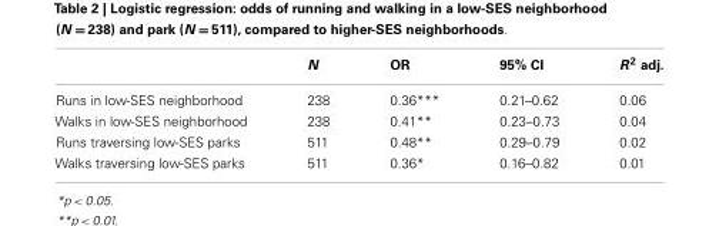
<table><thead><tr><td></td><td>N</td><td>OR</td><td>95% CI</td><td>R<sup>2</sup> adj.</td></tr></thead><tbody><tr><td>Runs in low-SES neighborhood</td><td>238</td><td>0.36***</td><td>0.21–0.62</td><td>0.06</td></tr><tr><td>Walks in low-SES neighborhood</td><td>238</td><td>0.41**</td><td>0.23–0.73</td><td>0.04</td></tr><tr><td>Runs traversing low-SES parks</td><td>511</td><td>0.48**</td><td>0.29–0.79</td><td>0.02</td></tr><tr><td>Walks traversing low-SES parks</td><td>511</td><td>0.36*</td><td>0.16–0.82</td><td>0.01</td></tr></tbody></table>